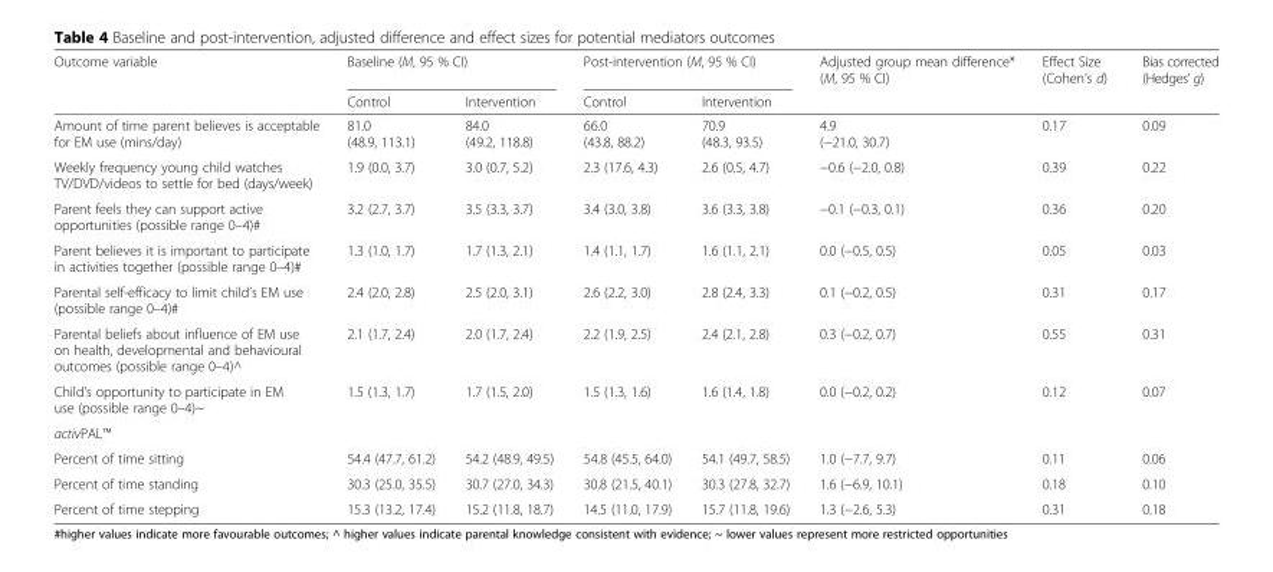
<table><thead><tr><td rowspan="2">Outcome variable</td><td colspan="2">Baseline (M, 95 % CI)</td><td colspan="2">Post-intervention (M, 95 % CI)</td><td rowspan="2">Adjusted group mean difference* (M, 95 % CI)</td><td rowspan="2">Effect Size (Cohen’s d)</td><td rowspan="2">Bias corrected (Hedges’ g)</td></tr><tr><td>Control</td><td>Intervention</td><td>Control</td><td>Intervention</td></tr></thead><tbody><tr><td>Amount of time parent believes is acceptable for EM use (mins/day)</td><td>81.0 (48.9, 113.1)</td><td>84.0 (49.2, 118.8)</td><td>66.0 (43.8, 88.2)</td><td>70.9 (48.3, 93.5)</td><td>4.9 (−21.0, 30.7)</td><td>0.17</td><td>0.09</td></tr><tr><td>Weekly frequency young child watches TV/DVD/videos to settle for bed (days/week)</td><td>1.9 (0.0, 3.7)</td><td>3.0 (0.7, 5.2)</td><td>2.3 (17.6, 4.3)</td><td>2.6 (0.5, 4.7)</td><td>−0.6 (−2.0, 0.8)</td><td>0.39</td><td>0.22</td></tr><tr><td>Parent feels they can support active opportunities (possible range 0–4)#</td><td>3.2 (2.7, 3.7)</td><td>3.5 (3.3, 3.7)</td><td>3.4 (3.0, 3.8)</td><td>3.6 (3.3, 3.8)</td><td>−0.1 (−0.3, 0.1)</td><td>0.36</td><td>0.20</td></tr><tr><td>Parent believes it is important to participate in activities together (possible range 0–4)#</td><td>1.3 (1.0, 1.7)</td><td>1.7 (1.3, 2.1)</td><td>1.4 (1.1, 1.7)</td><td>1.6 (1.1, 2.1)</td><td>0.0 (−0.5, 0.5)</td><td>0.05</td><td>0.03</td></tr><tr><td>Parental self-efficacy to limit child’s EM use (possible range 0–4)#</td><td>2.4 (2.0, 2.8)</td><td>2.5 (2.0, 3.1)</td><td>2.6 (2.2, 3.0)</td><td>2.8 (2.4, 3.3)</td><td>0.1 (−0.2, 0.5)</td><td>0.31</td><td>0.17</td></tr><tr><td>Parental beliefs about influence of EM use on health, developmental and behavioural outcomes (possible range 0–4)^</td><td>2.1 (1.7, 2.4)</td><td>2.0 (1.7, 2.4)</td><td>2.2 (1.9, 2.5)</td><td>2.4 (2.1, 2.8)</td><td>0.3 (−0.2, 0.7)</td><td>0.55</td><td>0.31</td></tr><tr><td>Child’s opportunity to participate in EM use (possible range 0–4)~</td><td>1.5 (1.3, 1.7)</td><td>1.7 (1.5, 2.0)</td><td>1.5 (1.3, 1.6)</td><td>1.6 (1.4, 1.8)</td><td>0.0 (−0.2, 0.2)</td><td>0.12</td><td>0.07</td></tr><tr><td colspan="8">activPAL™</td></tr><tr><td>Percent of time sitting</td><td>54.4 (47.7, 61.2)</td><td>54.2 (48.9, 49.5)</td><td>54.8 (45.5, 64.0)</td><td>54.1 (49.7, 58.5)</td><td>1.0 (−7.7, 9.7)</td><td>0.11</td><td>0.06</td></tr><tr><td>Percent of time standing</td><td>30.3 (25.0, 35.5)</td><td>30.7 (27.0, 34.3)</td><td>30.8 (21.5, 40.1)</td><td>30.3 (27.8, 32.7)</td><td>1.6 (−6.9, 10.1)</td><td>0.18</td><td>0.10</td></tr><tr><td>Percent of time stepping</td><td>15.3 (13.2, 17.4)</td><td>15.2 (11.8, 18.7)</td><td>14.5 (11.0, 17.9)</td><td>15.7 (11.8, 19.6)</td><td>1.3 (−2.6, 5.3)</td><td>0.31</td><td>0.18</td></tr></tbody></table>